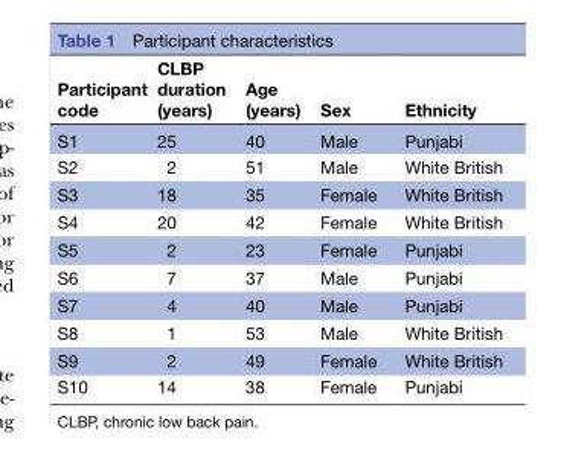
<table><thead><tr><td>Participant code</td><td>CLBP duration (years)</td><td>Age (years)</td><td>Sex</td><td>Ethnicity</td></tr></thead><tbody><tr><td>S1</td><td>25</td><td>40</td><td>Male</td><td>Punjabi</td></tr><tr><td>S2</td><td>2</td><td>51</td><td>Male</td><td>White British</td></tr><tr><td>S3</td><td>18</td><td>35</td><td>Female</td><td>White British</td></tr><tr><td>S4</td><td>20</td><td>42</td><td>Female</td><td>White British</td></tr><tr><td>S5</td><td>2</td><td>23</td><td>Female</td><td>Punjabi</td></tr><tr><td>S6</td><td>7</td><td>37</td><td>Male</td><td>Punjabi</td></tr><tr><td>S7</td><td>4</td><td>40</td><td>Male</td><td>Punjabi</td></tr><tr><td>S8</td><td>1</td><td>53</td><td>Male</td><td>White British</td></tr><tr><td>S9</td><td>2</td><td>49</td><td>Female</td><td>White British</td></tr><tr><td>S10</td><td>14</td><td>38</td><td>Female</td><td>Punjabi</td></tr></tbody></table>